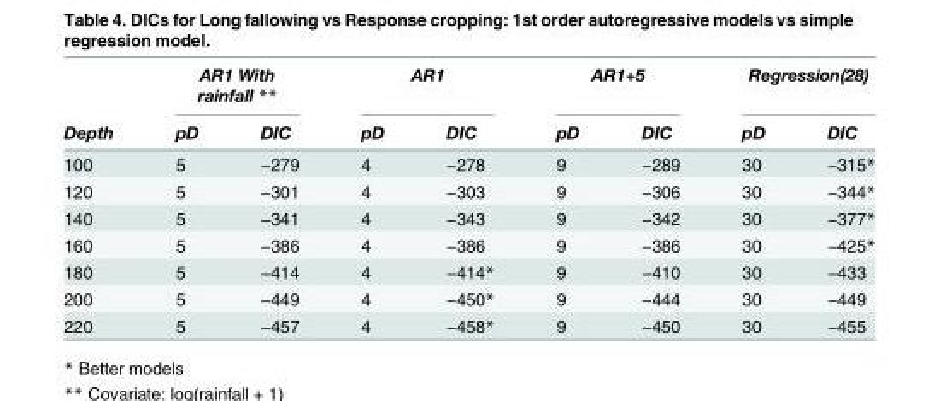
<table><thead><tr><td rowspan="2">Depth</td><td colspan="2">AR1 With rainfall **</td><td colspan="2">AR1</td><td colspan="2">AR1+5</td><td colspan="2">Regression(28)</td></tr><tr><td>pD</td><td>DIC</td><td>pD</td><td>DIC</td><td>pD</td><td>DIC</td><td>pD</td><td>DIC</td></tr></thead><tbody><tr><td>100</td><td>5</td><td>−279</td><td>4</td><td>−278</td><td>9</td><td>−289</td><td>30</td><td>−315*</td></tr><tr><td>120</td><td>5</td><td>−301</td><td>4</td><td>−303</td><td>9</td><td>−306</td><td>30</td><td>−344*</td></tr><tr><td>140</td><td>5</td><td>−341</td><td>4</td><td>−343</td><td>9</td><td>−342</td><td>30</td><td>−377*</td></tr><tr><td>160</td><td>5</td><td>−386</td><td>4</td><td>−386</td><td>9</td><td>−386</td><td>30</td><td>−425*</td></tr><tr><td>180</td><td>5</td><td>−414</td><td>4</td><td>−414*</td><td>9</td><td>−410</td><td>30</td><td>−433</td></tr><tr><td>200</td><td>5</td><td>−449</td><td>4</td><td>−450*</td><td>9</td><td>−444</td><td>30</td><td>−449</td></tr><tr><td>220</td><td>5</td><td>−457</td><td>4</td><td>−458*</td><td>9</td><td>−450</td><td>30</td><td>−455</td></tr></tbody></table>